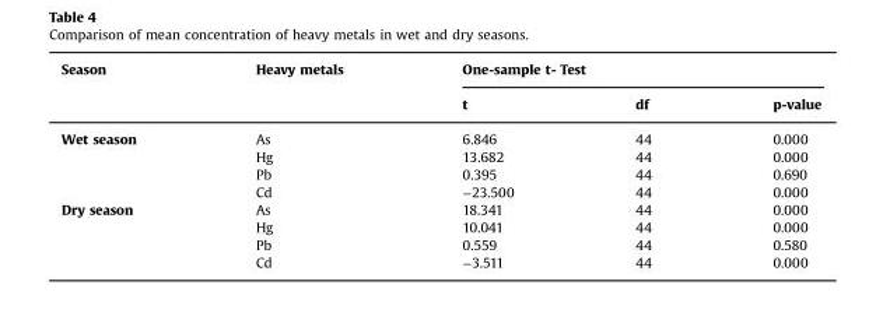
<table><thead><tr><td rowspan="2">Season</td><td rowspan="2">Heavy metals</td><td colspan="3">One-sample t- Test</td></tr><tr><td>t</td><td>df</td><td>p-value</td></tr></thead><tbody><tr><td rowspan="4">Wet season</td><td>As</td><td>6.846</td><td>44</td><td>0.000</td></tr><tr><td>Hg</td><td>13.682</td><td>44</td><td>0.000</td></tr><tr><td>Pb</td><td>0.395</td><td>44</td><td>0.690</td></tr><tr><td>Cd</td><td>−23.500</td><td>44</td><td>0.000</td></tr><tr><td rowspan="4">Dry season</td><td>As</td><td>18.341</td><td>44</td><td>0.000</td></tr><tr><td>Hg</td><td>10.041</td><td>44</td><td>0.000</td></tr><tr><td>Pb</td><td>0.559</td><td>44</td><td>0.580</td></tr><tr><td>Cd</td><td>−3.511</td><td>44</td><td>0.000</td></tr></tbody></table>